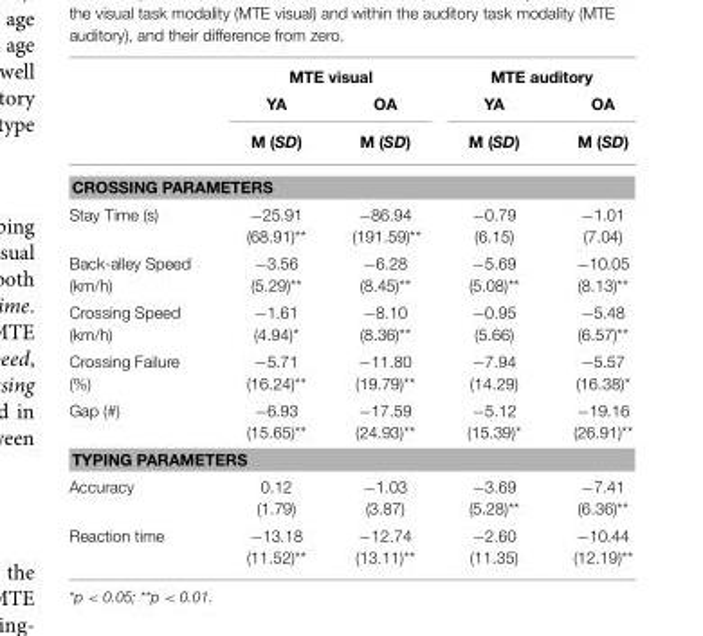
<table><thead><tr><td rowspan="3"></td><td colspan="2">MTE visual</td><td colspan="2">MTE auditory</td></tr><tr><td rowspan="2">YA M (SD)</td><td rowspan="2">OA M (SD)</td><td rowspan="2">YA M (SD)</td><td rowspan="2">OA M (SD)</td></tr><tr></tr></thead><tbody><tr><td colspan="5">CROSSING PARAMETERS</td></tr><tr><td>Stay Time (s)</td><td>−25.91 (68.91)**</td><td>−86.94 (191.59)**</td><td>−0.79 (6.15)</td><td>−1.01 (7.04)</td></tr><tr><td>Back-alley Speed (km/h)</td><td>−3.56 (5.29)**</td><td>−6.28 (8.45)**</td><td>−5.69 (5.08)**</td><td>−10.05 (8.13)**</td></tr><tr><td>Crossing Speed (km/h)</td><td>−1.61 (4.94)*</td><td>−8.10 (8.36)**</td><td>−0.95 (5.66)</td><td>−5.48 (6.57)**</td></tr><tr><td>Crossing Failure (%)</td><td>−5.71 (16.24)**</td><td>−11.80 (19.79)**</td><td>−7.94 (14.29)</td><td>−5.57 (16.38)*</td></tr><tr><td>Gap (#)</td><td>−6.93 (15.65)**</td><td>−17.59 (24.93)**</td><td>−5.12 (15.39)*</td><td>−19.16 (26.91)**</td></tr><tr><td colspan="5">TYPING PARAMETERS</td></tr><tr><td>Accuracy</td><td>0.12 (1.79)</td><td>−1.03 (3.87)</td><td>−3.69 (5.28)**</td><td>−7.41 (6.36)**</td></tr><tr><td>Reaction time</td><td>−13.18 (11.52)**</td><td>−12.74 (13.11)**</td><td>−2.60 (11.35)</td><td>−10.44 (12.19)**</td></tr></tbody></table>